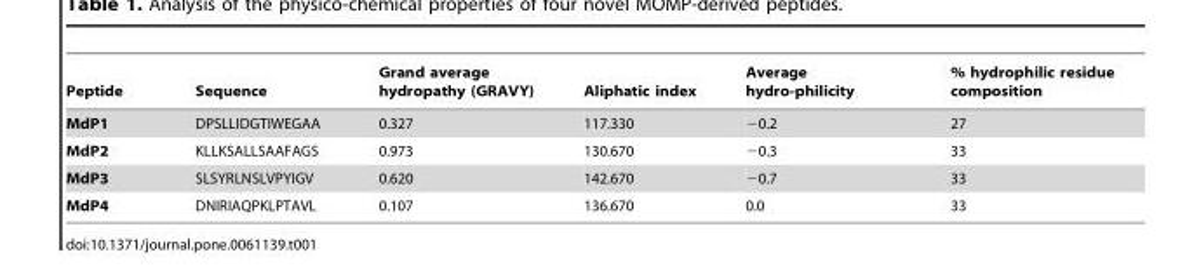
<table><thead><tr><td>Peptide</td><td>Sequence</td><td>Grand average hydropathy (GRAVY)</td><td>Aliphatic index</td><td>Average hydro-philicity</td><td>% hydrophilic residue composition</td></tr></thead><tbody><tr><td>MdP1</td><td>DPSLLIDGTIWEGAA</td><td>0.327</td><td>117.330</td><td>−0.2</td><td>27</td></tr><tr><td>MdP2</td><td>KLLKSALLSAAFAGS</td><td>0.973</td><td>130.670</td><td>−0.3</td><td>33</td></tr><tr><td>MdP3</td><td>SLSYRLNSLVPYIGV</td><td>0.620</td><td>142.670</td><td>−0.7</td><td>33</td></tr><tr><td>MdP4</td><td>DNIRIAQPKLPTAVL</td><td>0.107</td><td>136.670</td><td>0.0</td><td>33</td></tr></tbody></table>